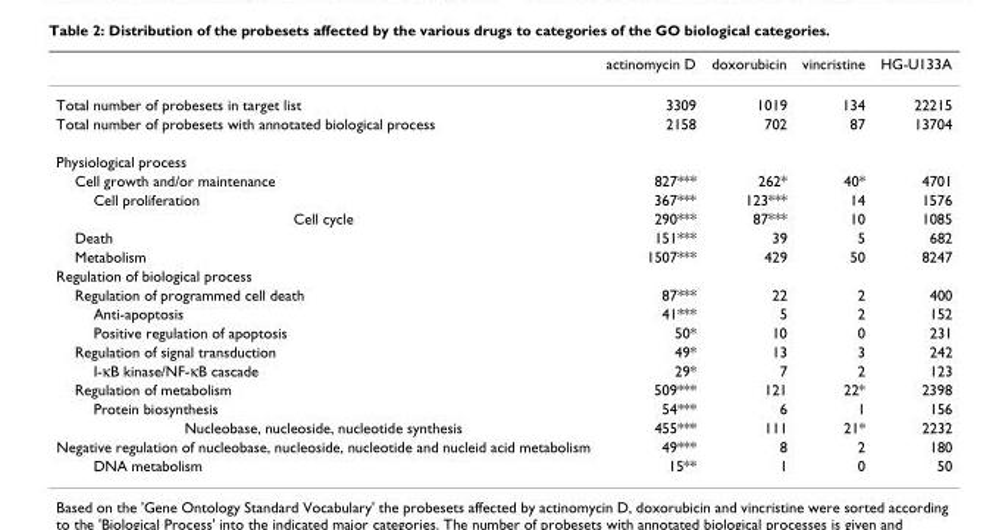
<table><thead><tr><td></td><td>actinomycin D</td><td>doxorubicin</td><td>vincristine</td><td>HG-U133A</td></tr></thead><tbody><tr><td>Total number of probesets in target list</td><td>3309</td><td>1019</td><td>134</td><td>22215</td></tr><tr><td>Total number of probesets with annotated biological process</td><td>2158</td><td>702</td><td>87</td><td>13704</td></tr><tr><td colspan="5">Physiological process</td></tr><tr><td>Cell growth and/or maintenance</td><td>827***</td><td>262*</td><td>40*</td><td>4701</td></tr><tr><td>Cell proliferation</td><td>367***</td><td>123***</td><td>14</td><td>1576</td></tr><tr><td>Cell cycle</td><td>290***</td><td>87***</td><td>10</td><td>1085</td></tr><tr><td>Death</td><td>151***</td><td>39</td><td>5</td><td>682</td></tr><tr><td>Metabolism</td><td>1507***</td><td>429</td><td>50</td><td>8247</td></tr><tr><td colspan="5">Regulation of biological process</td></tr><tr><td>Regulation of programmed cell death</td><td>87***</td><td>22</td><td>2</td><td>400</td></tr><tr><td>Anti-apoptosis</td><td>41***</td><td>5</td><td>2</td><td>152</td></tr><tr><td>Positive regulation of apoptosis</td><td>50*</td><td>10</td><td>0</td><td>231</td></tr><tr><td>Regulation of signal transduction</td><td>49*</td><td>13</td><td>3</td><td>242</td></tr><tr><td>I-κB kinase/NF-κB cascade</td><td>29*</td><td>7</td><td>2</td><td>123</td></tr><tr><td>Regulation of metabolism</td><td>509***</td><td>121</td><td>22*</td><td>2398</td></tr><tr><td>Protein biosynthesis</td><td>54***</td><td>6</td><td>1</td><td>156</td></tr><tr><td>Nucleobase, nucleoside, nucleotide synthesis</td><td>455***</td><td>111</td><td>21*</td><td>2232</td></tr><tr><td>Negative regulation of nucleobase, nucleoside, nucleotide and nucleid acid metabolism</td><td>49***</td><td>8</td><td>2</td><td>180</td></tr><tr><td>DNA metabolism</td><td>15**</td><td>1</td><td>0</td><td>50</td></tr></tbody></table>